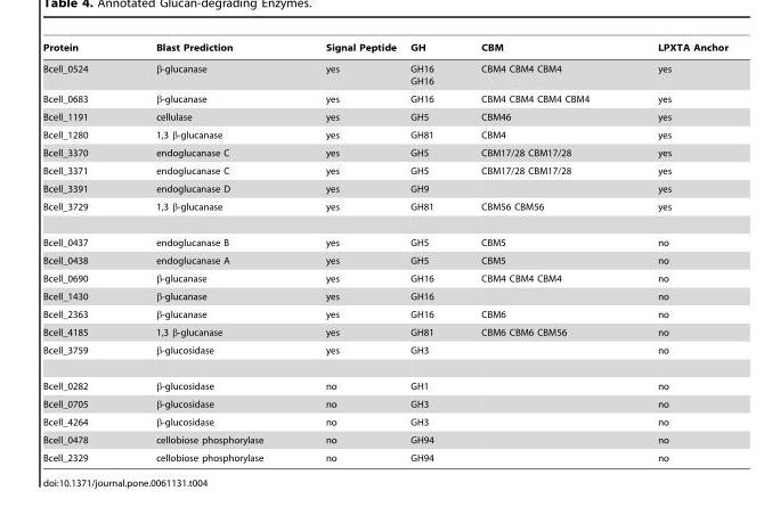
<table><thead><tr><td>Protein</td><td>Blast Prediction</td><td>Signal Peptide</td><td>GH</td><td>CBM</td><td>LPXTA Anchor</td></tr></thead><tbody><tr><td>Bcell_0524</td><td>β-glucanase</td><td>yes</td><td>GH16 GH16</td><td>CBM4 CBM4 CBM4</td><td>yes</td></tr><tr><td>Bcell_0683</td><td>β-glucanase</td><td>yes</td><td>GH16</td><td>CBM4 CBM4 CBM4 CBM4</td><td>yes</td></tr><tr><td>Bcell_1191</td><td>cellulase</td><td>yes</td><td>GH5</td><td>CBM46</td><td>yes</td></tr><tr><td>Bcell_1280</td><td>1,3 β-glucanase</td><td>yes</td><td>GH81</td><td>CBM4</td><td>yes</td></tr><tr><td>Bcell_3370</td><td>endoglucanase C</td><td>yes</td><td>GH5</td><td>CBM17/28 CBM17/28</td><td>yes</td></tr><tr><td>Bcell_3371</td><td>endoglucanase C</td><td>yes</td><td>GH5</td><td>CBM17/28 CBM17/28</td><td>yes</td></tr><tr><td>Bcell_3391</td><td>endoglucanase D</td><td>yes</td><td>GH9</td><td></td><td>yes</td></tr><tr><td>Bcell_3729</td><td>1,3 β-glucanase</td><td>yes</td><td>GH81</td><td>CBM56 CBM56</td><td>yes</td></tr><tr><td>Bcell_0437</td><td>endoglucanase B</td><td>yes</td><td>GH5</td><td>CBM5</td><td>no</td></tr><tr><td>Bcell_0438</td><td>endoglucanase A</td><td>yes</td><td>GH5</td><td>CBM5</td><td>no</td></tr><tr><td>Bcell_0690</td><td>β-glucanase</td><td>yes</td><td>GH16</td><td>CBM4 CBM4 CBM4</td><td>no</td></tr><tr><td>Bcell_1430</td><td>β-glucanase</td><td>yes</td><td>GH16</td><td></td><td>no</td></tr><tr><td>Bcell_2363</td><td>β-glucanase</td><td>yes</td><td>GH16</td><td>CBM6</td><td>no</td></tr><tr><td>Bcell_4185</td><td>1,3 β-glucanase</td><td>yes</td><td>GH81</td><td>CBM6 CBM6 CBM56</td><td>no</td></tr><tr><td>Bcell_3759</td><td>β-glucosidase</td><td>yes</td><td>GH3</td><td></td><td>no</td></tr><tr><td>Bcell_0282</td><td>β-glucosidase</td><td>no</td><td>GH1</td><td></td><td>no</td></tr><tr><td>Bcell_0705</td><td>β-glucosidase</td><td>no</td><td>GH3</td><td></td><td>no</td></tr><tr><td>Bcell_4264</td><td>β-glucosidase</td><td>no</td><td>GH3</td><td></td><td>no</td></tr><tr><td>Bcell_0478</td><td>cellobiose phosphorylase</td><td>no</td><td>GH94</td><td></td><td>no</td></tr><tr><td>Bcell_2329</td><td>cellobiose phosphorylase</td><td>no</td><td>GH94</td><td></td><td>no</td></tr></tbody></table>